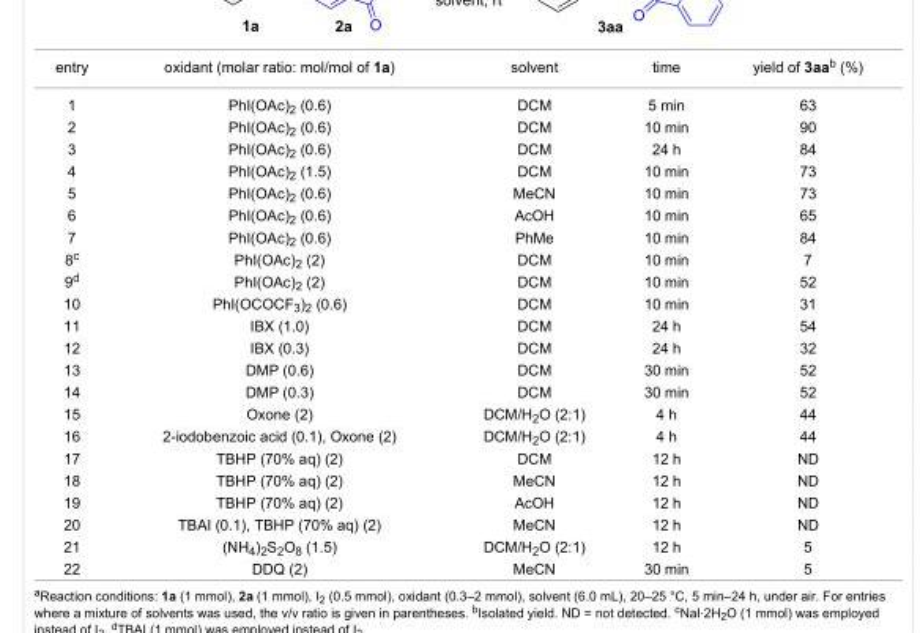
<table><tbody><tr><td>entry</td><td>oxidant (molar ratio: mol/mol of 1a)</td><td>solvent</td><td>time</td><td>yield of 3aa<sup>b</sup> (%)</td></tr><tr><td>1</td><td>PhI(OAc)<sub>2</sub> (0.6)</td><td>DCM</td><td>5 min</td><td>63</td></tr><tr><td>2</td><td>PhI(OAc)<sub>2</sub> (0.6)</td><td>DCM</td><td>10 min</td><td>90</td></tr><tr><td>3</td><td>PhI(OAc)<sub>2</sub> (0.6)</td><td>DCM</td><td>24 h</td><td>84</td></tr><tr><td>4</td><td>PhI(OAc)<sub>2</sub> (1.5)</td><td>DCM</td><td>10 min</td><td>73</td></tr><tr><td>5</td><td>PhI(OAc)<sub>2</sub> (0.6)</td><td>MeCN</td><td>10 min</td><td>73</td></tr><tr><td>6</td><td>PhI(OAc)<sub>2</sub> (0.6)</td><td>AcOH</td><td>10 min</td><td>65</td></tr><tr><td>7</td><td>PhI(OAc)<sub>2</sub> (0.6)</td><td>PhMe</td><td>10 min</td><td>84</td></tr><tr><td>8<sup>c</sup></td><td>PhI(OAc)<sub>2</sub> (2)</td><td>DCM</td><td>10 min</td><td>7</td></tr><tr><td>9<sup>d</sup></td><td>PhI(OAc)<sub>2</sub> (2)</td><td>DCM</td><td>10 min</td><td>52</td></tr><tr><td>10</td><td>PhI(OCOCF<sub>3</sub>)<sub>2</sub> (0.6)</td><td>DCM</td><td>10 min</td><td>31</td></tr><tr><td>11</td><td>IBX (1.0)</td><td>DCM</td><td>24 h</td><td>54</td></tr><tr><td>12</td><td>IBX (0.3)</td><td>DCM</td><td>24 h</td><td>32</td></tr><tr><td>13</td><td>DMP (0.6)</td><td>DCM</td><td>30 min</td><td>52</td></tr><tr><td>14</td><td>DMP (0.3)</td><td>DCM</td><td>30 min</td><td>52</td></tr><tr><td>15</td><td>Oxone (2)</td><td>DCM/H<sub>2</sub>O (2:1)</td><td>4 h</td><td>44</td></tr><tr><td>16</td><td>2-iodobenzoic acid (0.1), Oxone (2)</td><td>DCM/H<sub>2</sub>O (2:1)</td><td>4 h</td><td>44</td></tr><tr><td>17</td><td>TBHP (70% aq) (2)</td><td>DCM</td><td>12 h</td><td>ND</td></tr><tr><td>18</td><td>TBHP (70% aq) (2)</td><td>MeCN</td><td>12 h</td><td>ND</td></tr><tr><td>19</td><td>TBHP (70% aq) (2)</td><td>AcOH</td><td>12 h</td><td>ND</td></tr><tr><td>20</td><td>TBAI (0.1), TBHP (70% aq) (2)</td><td>MeCN</td><td>12 h</td><td>ND</td></tr><tr><td>21</td><td>(NH<sub>4</sub>)<sub>2</sub>S<sub>2</sub>O<sub>8</sub> (1.5)</td><td>DCM/H<sub>2</sub>O (2:1)</td><td>12 h</td><td>5</td></tr><tr><td>22</td><td>DDQ (2)</td><td>MeCN</td><td>30 min</td><td>5</td></tr></tbody></table>